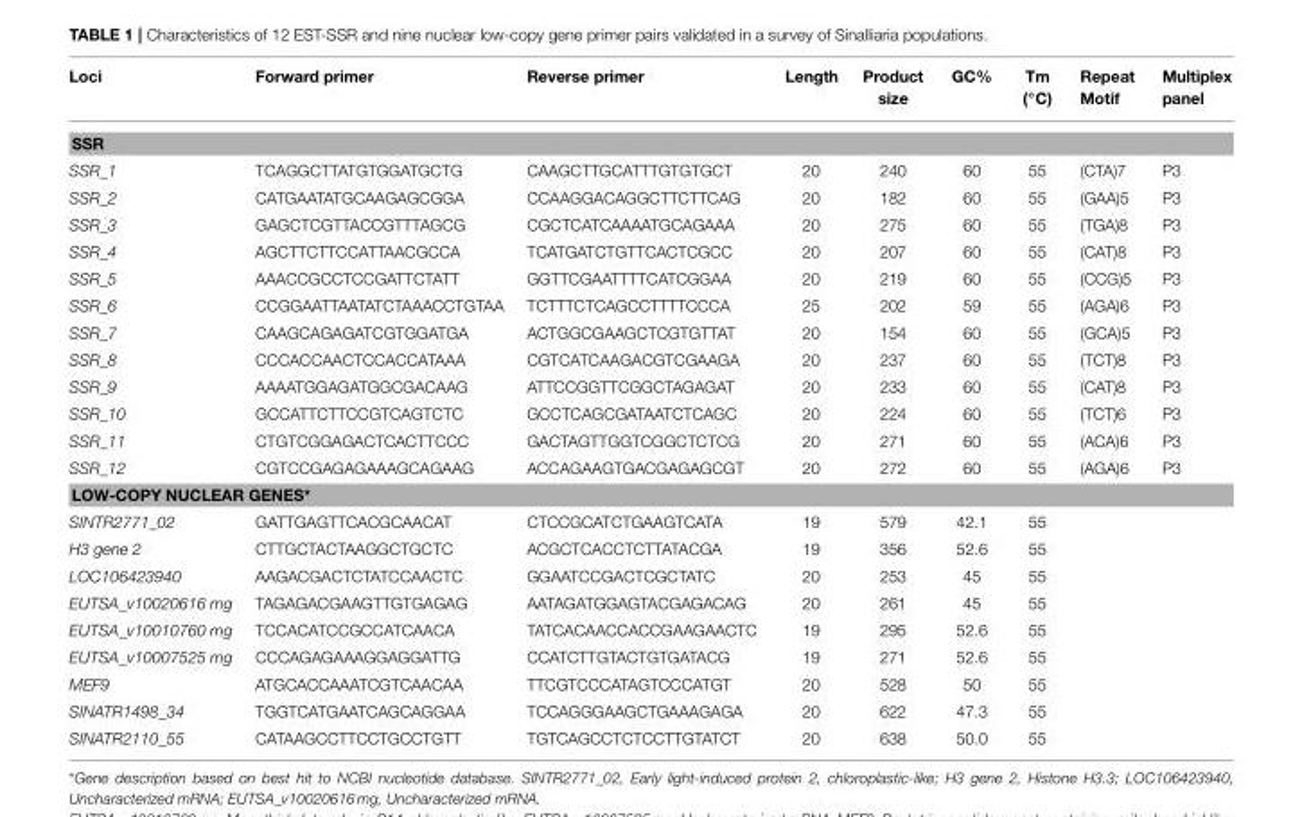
<table><thead><tr><td>Loci</td><td>Forward primer</td><td>Reverse primer</td><td>Length</td><td>Product size</td><td>GC%</td><td>Tm (◦C)</td><td>Repeat Motif</td><td>Multiplex panel</td></tr></thead><tbody><tr><td colspan="9">SSR</td></tr><tr><td>SSR_1</td><td>TCAGGCTTATGTGGATGCTG</td><td>CAAGCTTGCATTTGTGTGCT</td><td>20</td><td>240</td><td>60</td><td>55</td><td>(CTA)7</td><td>P3</td></tr><tr><td>SSR_2</td><td>CATGAATATGCAAGAGCGGA</td><td>CCAAGGACAGGCTTCTTCAG</td><td>20</td><td>182</td><td>60</td><td>55</td><td>(GAA)5</td><td>P3</td></tr><tr><td>SSR_3</td><td>GAGCTCGTTACCGTTTAGCG</td><td>CGCTCATCAAAATGCAGAAA</td><td>20</td><td>275</td><td>60</td><td>55</td><td>(TGA)8</td><td>P3</td></tr><tr><td>SSR_4</td><td>AGCTTCTTCCATTAACGCCA</td><td>TCATGATCTGTTCACTCGCC</td><td>20</td><td>207</td><td>60</td><td>55</td><td>(CAT)8</td><td>P3</td></tr><tr><td>SSR_5</td><td>AAACCGCCTCCGATTCTATT</td><td>GGTTCGAATTTTCATCGGAA</td><td>20</td><td>219</td><td>60</td><td>55</td><td>(CCG)5</td><td>P3</td></tr><tr><td>SSR_6</td><td>CCGGAATTAATATCTAAACCTGTAA</td><td>TCTTTCTCAGCCTTTTCCCA</td><td>25</td><td>202</td><td>59</td><td>55</td><td>(AGA)6</td><td>P3</td></tr><tr><td>SSR_7</td><td>CAAGCAGAGATCGTGGATGA</td><td>ACTGGCGAAGCTCGTGTTAT</td><td>20</td><td>154</td><td>60</td><td>55</td><td>(GCA)5</td><td>P3</td></tr><tr><td>SSR_8</td><td>CCCACCAACTCCACCATAAA</td><td>CGTCATCAAGACGTCGAAGA</td><td>20</td><td>237</td><td>60</td><td>55</td><td>(TCT)8</td><td>P3</td></tr><tr><td>SSR_9</td><td>AAAATGGAGATGGCGACAAG</td><td>ATTCCGGTTCGGCTAGAGAT</td><td>20</td><td>233</td><td>60</td><td>55</td><td>(CAT)8</td><td>P3</td></tr><tr><td>SSR_10</td><td>GCCATTCTTCCGTCAGTCTC</td><td>GCCTCAGCGATAATCTCAGC</td><td>20</td><td>224</td><td>60</td><td>55</td><td>(TCT)6</td><td>P3</td></tr><tr><td>SSR_11</td><td>CTGTCGGAGACTCACTTCCC</td><td>GACTAGTTGGTCGGCTCTCG</td><td>20</td><td>271</td><td>60</td><td>55</td><td>(ACA)6</td><td>P3</td></tr><tr><td>SSR_12</td><td>CGTCCGAGAGAAAGCAGAAG</td><td>ACCAGAAGTGACGAGAGCGT</td><td>20</td><td>272</td><td>60</td><td>55</td><td>(AGA)6</td><td>P3</td></tr><tr><td colspan="9">LOW-COPY NUCLEAR GENES*</td></tr><tr><td>SINTR2771_02</td><td>GATTGAGTTCACGCAACAT</td><td>CTCCGCATCTGAAGTCATA</td><td>19</td><td>579</td><td>42.1</td><td>55</td><td></td><td></td></tr><tr><td>H3 gene 2</td><td>CTTGCTACTAAGGCTGCTC</td><td>ACGCTCACCTCTTATACGA</td><td>19</td><td>356</td><td>52.6</td><td>55</td><td></td><td></td></tr><tr><td>LOC106423940</td><td>AAGACGACTCTATCCAACTC</td><td>GGAATCCGACTCGCTATC</td><td>20</td><td>253</td><td>45</td><td>55</td><td></td><td></td></tr><tr><td>EUTSA_v10020616 mg</td><td>TAGAGACGAAGTTGTGAGAG</td><td>AATAGATGGAGTACGAGACAG</td><td>20</td><td>261</td><td>45</td><td>55</td><td></td><td></td></tr><tr><td>EUTSA_v10010760 mg</td><td>TCCACATCCGCCATCAACA</td><td>TATCACAACCACCGAAGAACTC</td><td>19</td><td>295</td><td>52.6</td><td>55</td><td></td><td></td></tr><tr><td>EUTSA_v10007525 mg</td><td>CCCAGAGAAAGGAGGATTG</td><td>CCATCTTGTACTGTGATACG</td><td>19</td><td>271</td><td>52.6</td><td>55</td><td></td><td></td></tr><tr><td>MEF9</td><td>ATGCACCAAATCGTCAACAA</td><td>TTCGTCCCATAGTCCCATGT</td><td>20</td><td>528</td><td>50</td><td>55</td><td></td><td></td></tr><tr><td>SINATR1498_34</td><td>TGGTCATGAATCAGCAGGAA</td><td>TCCAGGGAAGCTGAAAGAGA</td><td>20</td><td>622</td><td>47.3</td><td>55</td><td></td><td></td></tr><tr><td>SINATR2110_55</td><td>CATAAGCCTTCCTGCCTGTT</td><td>TGTCAGCCTCTCCTTGTATCT</td><td>20</td><td>638</td><td>50.0</td><td>55</td><td></td><td></td></tr></tbody></table>